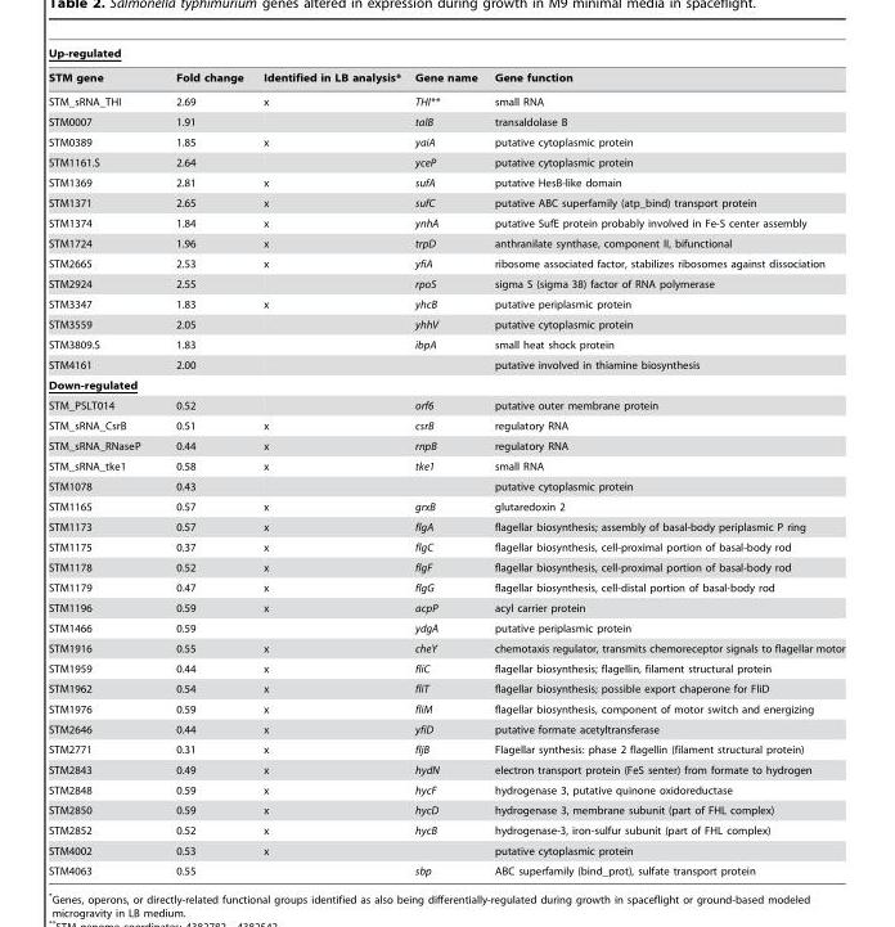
<table><thead><tr><td colspan="5">Up-regulated</td></tr><tr><td>STM gene</td><td>Fold change</td><td>Identified in LB analysis*</td><td>Gene name</td><td>Gene function</td></tr></thead><tbody><tr><td>STM_sRNA_THI</td><td>2.69</td><td>x</td><td>THI**</td><td>small RNA</td></tr><tr><td>STM0007</td><td>1.91</td><td></td><td>talB</td><td>transaldolase B</td></tr><tr><td>STM0389</td><td>1.85</td><td>x</td><td>yaiA</td><td>putative cytoplasmic protein</td></tr><tr><td>STM1161.S</td><td>2.64</td><td></td><td>yceP</td><td>putative cytoplasmic protein</td></tr><tr><td>STM1369</td><td>2.81</td><td>x</td><td>sufA</td><td>putative HesB-like domain</td></tr><tr><td>STM1371</td><td>2.65</td><td>x</td><td>sufC</td><td>putative ABC superfamily (atp_bind) transport protein</td></tr><tr><td>STM1374</td><td>1.84</td><td>x</td><td>ynhA</td><td>putative SufE protein probably involved in Fe-S center assembly</td></tr><tr><td>STM1724</td><td>1.96</td><td>x</td><td>trpD</td><td>anthranilate synthase, component II, bifunctional</td></tr><tr><td>STM2665</td><td>2.53</td><td>x</td><td>yfiA</td><td>ribosome associated factor, stabilizes ribosomes against dissociation</td></tr><tr><td>STM2924</td><td>2.55</td><td></td><td>rpoS</td><td>sigma S (sigma 38) factor of RNA polymerase</td></tr><tr><td>STM3347</td><td>1.83</td><td>x</td><td>yhcB</td><td>putative periplasmic protein</td></tr><tr><td>STM3559</td><td>2.05</td><td></td><td>yhhV</td><td>putative cytoplasmic protein</td></tr><tr><td>STM3809.S</td><td>1.83</td><td></td><td>ibpA</td><td>small heat shock protein</td></tr><tr><td>STM4161</td><td>2.00</td><td></td><td></td><td>putative involved in thiamine biosynthesis</td></tr><tr><td colspan="5">Down-regulated</td></tr><tr><td>STM_PSLT014</td><td>0.52</td><td></td><td>orf6</td><td>putative outer membrane protein</td></tr><tr><td>STM_sRNA_CsrB</td><td>0.51</td><td>x</td><td>csrB</td><td>regulatory RNA</td></tr><tr><td>STM_sRNA_RNaseP</td><td>0.44</td><td>x</td><td>rnpB</td><td>regulatory RNA</td></tr><tr><td>STM_sRNA_tke1</td><td>0.58</td><td>x</td><td>tke1</td><td>small RNA</td></tr><tr><td>STM1078</td><td>0.43</td><td></td><td></td><td>putative cytoplasmic protein</td></tr><tr><td>STM1165</td><td>0.57</td><td>x</td><td>grxB</td><td>glutaredoxin 2</td></tr><tr><td>STM1173</td><td>0.57</td><td>x</td><td>flgA</td><td>flagellar biosynthesis; assembly of basal-body periplasmic P ring</td></tr><tr><td>STM1175</td><td>0.37</td><td>x</td><td>flgC</td><td>flagellar biosynthesis, cell-proximal portion of basal-body rod</td></tr><tr><td>STM1178</td><td>0.52</td><td>x</td><td>flgF</td><td>flagellar biosynthesis, cell-proximal portion of basal-body rod</td></tr><tr><td>STM1179</td><td>0.47</td><td>x</td><td>flgG</td><td>flagellar biosynthesis, cell-distal portion of basal-body rod</td></tr><tr><td>STM1196</td><td>0.59</td><td>x</td><td>acpP</td><td>acyl carrier protein</td></tr><tr><td>STM1466</td><td>0.59</td><td></td><td>ydgA</td><td>putative periplasmic protein</td></tr><tr><td>STM1916</td><td>0.55</td><td>x</td><td>cheY</td><td>chemotaxis regulator, transmits chemoreceptor signals to flagellar motor</td></tr><tr><td>STM1959</td><td>0.44</td><td>x</td><td>fliC</td><td>flagellar biosynthesis; flagellin, filament structural protein</td></tr><tr><td>STM1962</td><td>0.54</td><td>x</td><td>fliT</td><td>flagellar biosynthesis; possible export chaperone for FliD</td></tr><tr><td>STM1976</td><td>0.59</td><td>x</td><td>fliM</td><td>flagellar biosynthesis, component of motor switch and energizing</td></tr><tr><td>STM2646</td><td>0.44</td><td>x</td><td>yfiD</td><td>putative formate acetyltransferase</td></tr><tr><td>STM2771</td><td>0.31</td><td>x</td><td>fljB</td><td>Flagellar synthesis: phase 2 flagellin (filament structural protein)</td></tr><tr><td>STM2843</td><td>0.49</td><td>x</td><td>hydN</td><td>electron transport protein (FeS senter) from formate to hydrogen</td></tr><tr><td>STM2848</td><td>0.59</td><td>x</td><td>hycF</td><td>hydrogenase 3, putative quinone oxidoreductase</td></tr><tr><td>STM2850</td><td>0.59</td><td>x</td><td>hycD</td><td>hydrogenase 3, membrane subunit (part of FHL complex)</td></tr><tr><td>STM2852</td><td>0.52</td><td>x</td><td>hycB</td><td>hydrogenase-3, iron-sulfur subunit (part of FHL complex)</td></tr><tr><td>STM4002</td><td>0.53</td><td>x</td><td></td><td>putative cytoplasmic protein</td></tr><tr><td>STM4063</td><td>0.55</td><td></td><td>sbp</td><td>ABC superfamily (bind_prot), sulfate transport protein</td></tr></tbody></table>